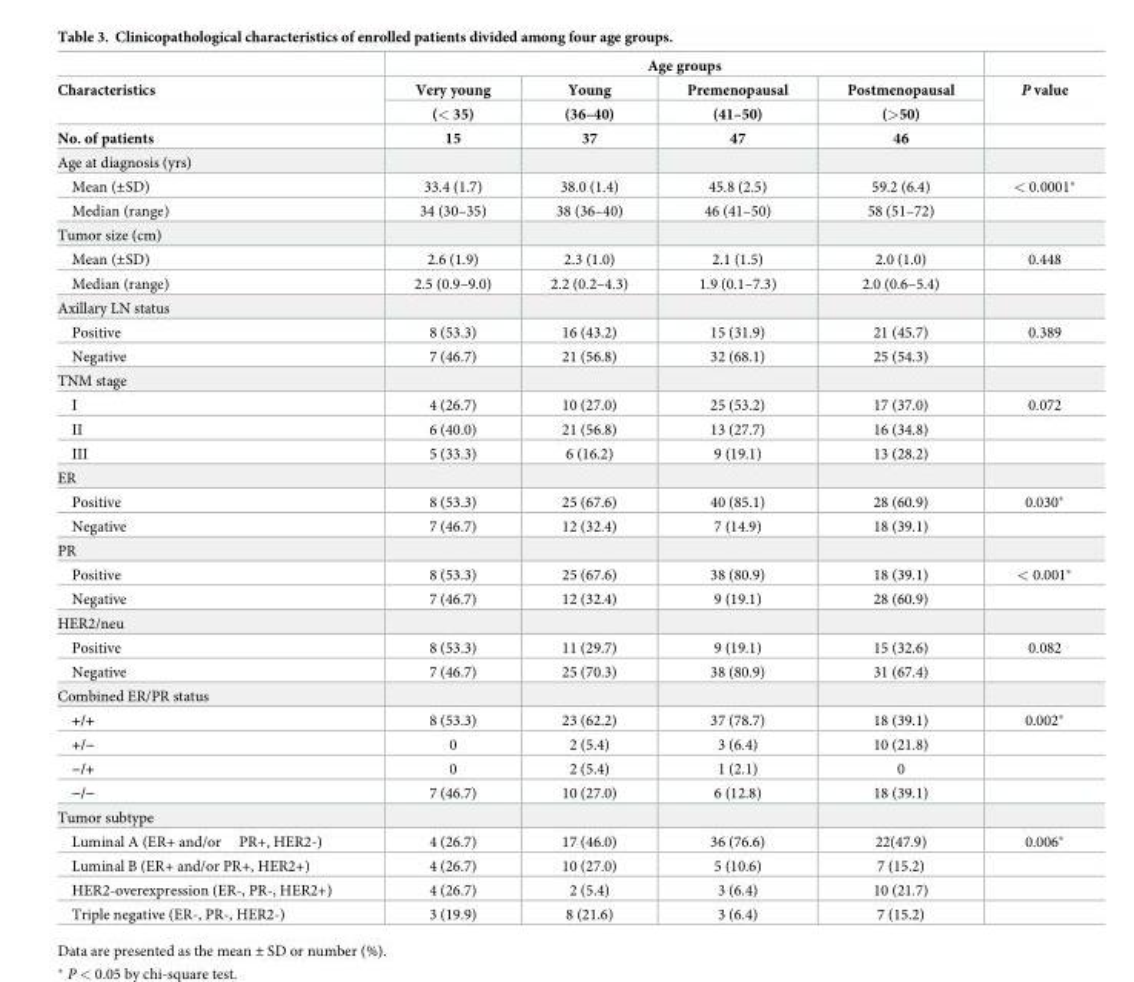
<table><thead><tr><td rowspan="4">Characteristics No. of patients</td><td colspan="4">Age groups</td><td rowspan="4">P value</td></tr><tr><td rowspan="3">Very young (&lt; 35) 15</td><td rowspan="3">Young (36–40) 37</td><td rowspan="3">Premenopausal (41–50) 47</td><td rowspan="3">Postmenopausal (&gt;50) 46</td></tr><tr></tr><tr></tr></thead><tbody><tr><td colspan="6">Age at diagnosis (yrs)</td></tr><tr><td>Mean (±SD)</td><td>33.4 (1.7)</td><td>38.0 (1.4)</td><td>45.8 (2.5)</td><td>59.2 (6.4)</td><td>&lt; 0.0001*</td></tr><tr><td>Median (range)</td><td>34 (30–35)</td><td>38 (36–40)</td><td>46 (41–50)</td><td>58 (51–72)</td><td></td></tr><tr><td colspan="6">Tumor size (cm)</td></tr><tr><td>Mean (±SD)</td><td>2.6 (1.9)</td><td>2.3 (1.0)</td><td>2.1 (1.5)</td><td>2.0 (1.0)</td><td>0.448</td></tr><tr><td>Median (range)</td><td>2.5 (0.9–9.0)</td><td>2.2 (0.2–4.3)</td><td>1.9 (0.1–7.3)</td><td>2.0 (0.6–5.4)</td><td></td></tr><tr><td colspan="6">Axillary LN status</td></tr><tr><td>Positive</td><td>8 (53.3)</td><td>16 (43.2)</td><td>15 (31.9)</td><td>21 (45.7)</td><td>0.389</td></tr><tr><td>Negative</td><td>7 (46.7)</td><td>21 (56.8)</td><td>32 (68.1)</td><td>25 (54.3)</td><td></td></tr><tr><td colspan="6">TNM stage</td></tr><tr><td>I</td><td>4 (26.7)</td><td>10 (27.0)</td><td>25 (53.2)</td><td>17 (37.0)</td><td>0.072</td></tr><tr><td>II</td><td>6 (40.0)</td><td>21 (56.8)</td><td>13 (27.7)</td><td>16 (34.8)</td><td></td></tr><tr><td>III</td><td>5 (33.3)</td><td>6 (16.2)</td><td>9 (19.1)</td><td>13 (28.2)</td><td></td></tr><tr><td colspan="6">ER</td></tr><tr><td>Positive</td><td>8 (53.3)</td><td>25 (67.6)</td><td>40 (85.1)</td><td>28 (60.9)</td><td>0.030*</td></tr><tr><td>Negative</td><td>7 (46.7)</td><td>12 (32.4)</td><td>7 (14.9)</td><td>18 (39.1)</td><td></td></tr><tr><td colspan="6">PR</td></tr><tr><td>Positive</td><td>8 (53.3)</td><td>25 (67.6)</td><td>38 (80.9)</td><td>18 (39.1)</td><td>&lt; 0.001*</td></tr><tr><td>Negative</td><td>7 (46.7)</td><td>12 (32.4)</td><td>9 (19.1)</td><td>28 (60.9)</td><td></td></tr><tr><td colspan="6">HER2/neu</td></tr><tr><td>Positive</td><td>8 (53.3)</td><td>11 (29.7)</td><td>9 (19.1)</td><td>15 (32.6)</td><td>0.082</td></tr><tr><td>Negative</td><td>7 (46.7)</td><td>25 (70.3)</td><td>38 (80.9)</td><td>31 (67.4)</td><td></td></tr><tr><td colspan="6">Combined ER/PR status</td></tr><tr><td>+/+</td><td>8 (53.3)</td><td>23 (62.2)</td><td>37 (78.7)</td><td>18 (39.1)</td><td>0.002*</td></tr><tr><td>+/−</td><td>0</td><td>2 (5.4)</td><td>3 (6.4)</td><td>10 (21.8)</td><td></td></tr><tr><td>−/+</td><td>0</td><td>2 (5.4)</td><td>1 (2.1)</td><td>0</td><td></td></tr><tr><td>−/−</td><td>7 (46.7)</td><td>10 (27.0)</td><td>6 (12.8)</td><td>18 (39.1)</td><td></td></tr><tr><td colspan="6">Tumor subtype</td></tr><tr><td>Luminal A (ER+ and/or PR+, HER2-)</td><td>4 (26.7)</td><td>17 (46.0)</td><td>36 (76.6)</td><td>22(47.9)</td><td>0.006*</td></tr><tr><td>Luminal B (ER+ and/or PR+, HER2+)</td><td>4 (26.7)</td><td>10 (27.0)</td><td>5 (10.6)</td><td>7 (15.2)</td><td></td></tr><tr><td>HER2-overexpression (ER-, PR-, HER2+)</td><td>4 (26.7)</td><td>2 (5.4)</td><td>3 (6.4)</td><td>10 (21.7)</td><td></td></tr><tr><td>Triple negative (ER-, PR-, HER2-)</td><td>3 (19.9)</td><td>8 (21.6)</td><td>3 (6.4)</td><td>7 (15.2)</td><td></td></tr></tbody></table>